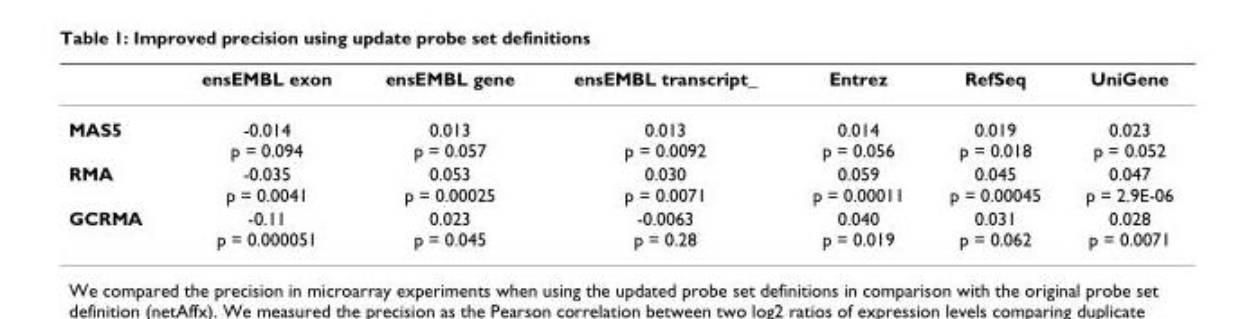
<table><thead><tr><td></td><td>ensEMBL exon</td><td>ensEMBL gene</td><td>ensEMBL transcript_</td><td>Entrez</td><td>RefSeq</td><td>UniGene</td></tr></thead><tbody><tr><td>MAS5</td><td>-0.014 p = 0.094</td><td>0.013 p = 0.057</td><td>0.013 p = 0.0092</td><td>0.014 p = 0.056</td><td>0.019 p = 0.018</td><td>0.023 p = 0.052</td></tr><tr><td>RMA</td><td>-0.035 p = 0.0041</td><td>0.053 p = 0.00025</td><td>0.030 p = 0.0071</td><td>0.059 p = 0.00011</td><td>0.045 p = 0.00045</td><td>0.047 p = 2.9E-06</td></tr><tr><td>GCRMA</td><td>-0.11 p = 0.000051</td><td>0.023 p = 0.045</td><td>-0.0063 p = 0.28</td><td>0.040 p = 0.019</td><td>0.031 p = 0.062</td><td>0.028 p = 0.0071</td></tr></tbody></table>